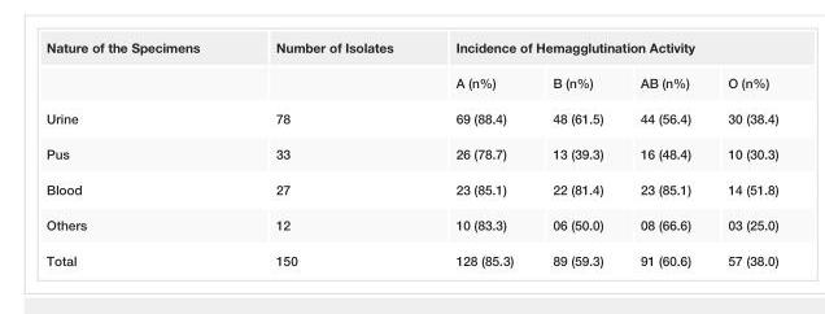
<table><tbody><tr><td rowspan="2">Nature of the Specimens</td><td>Number of Isolates</td><td colspan="4">Incidence of Hemagglutination Activity</td></tr><tr><td></td><td>A (n%)</td><td>B (n%)</td><td>AB (n%)</td><td>O (n%)</td></tr><tr><td>Urine</td><td>78</td><td>69 (88.4)</td><td>48 (61.5)</td><td>44 (56.4)</td><td>30 (38.4)</td></tr><tr><td>Pus</td><td>33</td><td>26 (78.7)</td><td>13 (39.3)</td><td>16 (48.4)</td><td>10 (30.3)</td></tr><tr><td>Blood</td><td>27</td><td>23 (85.1)</td><td>22 (81.4)</td><td>23 (85.1)</td><td>14 (51.8)</td></tr><tr><td>Others</td><td>12</td><td>10 (83.3)</td><td>06 (50.0)</td><td>08 (66.6)</td><td>03 (25.0)</td></tr><tr><td>Total</td><td>150</td><td>128 (85.3)</td><td>89 (59.3)</td><td>91 (60.6)</td><td>57 (38.0)</td></tr></tbody></table>